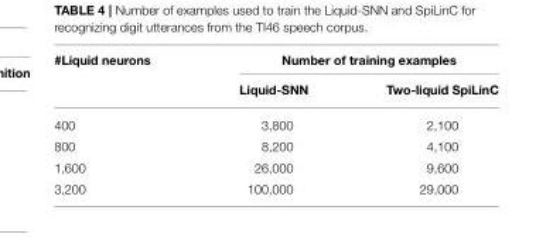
<table><thead><tr><td rowspan="2">#Liquid neurons</td><td colspan="2">Number of training examples</td></tr><tr><td>Liquid-SNN</td><td>Two-liquid SpiLinC</td></tr></thead><tbody><tr><td>400</td><td>3,800</td><td>2,100</td></tr><tr><td>800</td><td>8,200</td><td>4,100</td></tr><tr><td>1,600</td><td>26,000</td><td>9,600</td></tr><tr><td>3,200</td><td>100,000</td><td>29,000</td></tr></tbody></table>